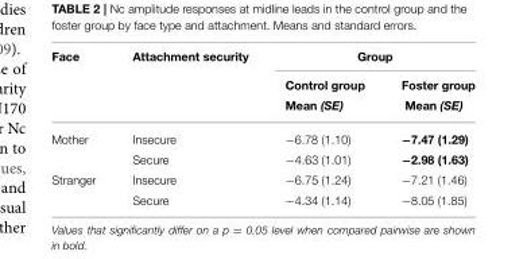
<table><thead><tr><td rowspan="2">Face</td><td rowspan="2">Attachment security</td><td colspan="2">Group</td></tr><tr><td>Control group Mean (SE)</td><td>Foster group Mean (SE)</td></tr></thead><tbody><tr><td rowspan="2">Mother</td><td>Insecure</td><td>−6.78 (1.10)</td><td>−7.47 (1.29)</td></tr><tr><td>Secure</td><td>−4.63 (1.01)</td><td>−2.98 (1.63)</td></tr><tr><td rowspan="2">Stranger</td><td>Insecure</td><td>−6.75 (1.24)</td><td>−7.21 (1.46)</td></tr><tr><td>Secure</td><td>−4.34 (1.14)</td><td>−8.05 (1.85)</td></tr></tbody></table>